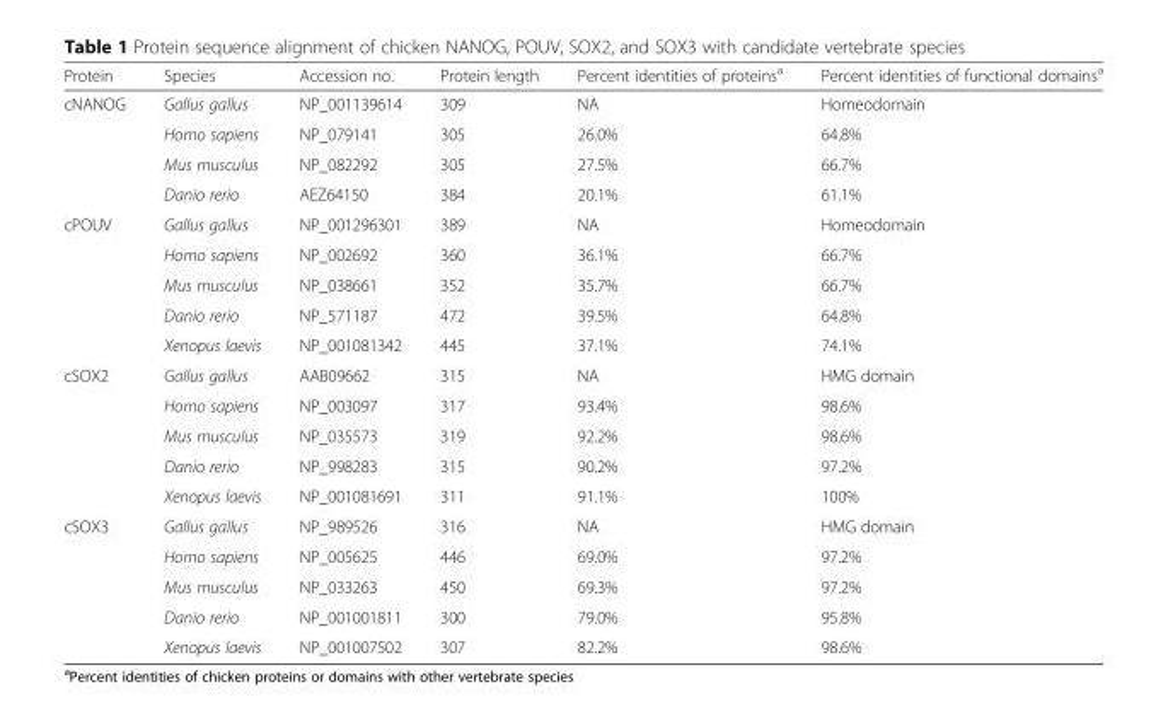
<table><thead><tr><td>Protein</td><td>Species</td><td>Accession no.</td><td>Protein length</td><td>Percent identities of proteins<sup>a</sup></td><td>Percent identities of functional domains<sup>a</sup></td></tr></thead><tbody><tr><td rowspan="4">cNANOG</td><td>Gallus gallus</td><td>NP_001139614</td><td>309</td><td>NA</td><td>Homeodomain</td></tr><tr><td>Homo sapiens</td><td>NP_079141</td><td>305</td><td>26.0%</td><td>64.8%</td></tr><tr><td>Mus musculus</td><td>NP_082292</td><td>305</td><td>27.5%</td><td>66.7%</td></tr><tr><td>Danio rerio</td><td>AEZ64150</td><td>384</td><td>20.1%</td><td>61.1%</td></tr><tr><td rowspan="5">cPOUV</td><td>Gallus gallus</td><td>NP_001296301</td><td>389</td><td>NA</td><td>Homeodomain</td></tr><tr><td>Homo sapiens</td><td>NP_002692</td><td>360</td><td>36.1%</td><td>66.7%</td></tr><tr><td>Mus musculus</td><td>NP_038661</td><td>352</td><td>35.7%</td><td>66.7%</td></tr><tr><td>Danio rerio</td><td>NP_571187</td><td>472</td><td>39.5%</td><td>64.8%</td></tr><tr><td>Xenopus laevis</td><td>NP_001081342</td><td>445</td><td>37.1%</td><td>74.1%</td></tr><tr><td rowspan="5">cSOX2</td><td>Gallus gallus</td><td>AAB09662</td><td>315</td><td>NA</td><td>HMG domain</td></tr><tr><td>Homo sapiens</td><td>NP_003097</td><td>317</td><td>93.4%</td><td>98.6%</td></tr><tr><td>Mus musculus</td><td>NP_035573</td><td>319</td><td>92.2%</td><td>98.6%</td></tr><tr><td>Danio rerio</td><td>NP_998283</td><td>315</td><td>90.2%</td><td>97.2%</td></tr><tr><td>Xenopus laevis</td><td>NP_001081691</td><td>311</td><td>91.1%</td><td>100%</td></tr><tr><td rowspan="5">cSOX3</td><td>Gallus gallus</td><td>NP_989526</td><td>316</td><td>NA</td><td>HMG domain</td></tr><tr><td>Homo sapiens</td><td>NP_005625</td><td>446</td><td>69.0%</td><td>97.2%</td></tr><tr><td>Mus musculus</td><td>NP_033263</td><td>450</td><td>69.3%</td><td>97.2%</td></tr><tr><td>Danio rerio</td><td>NP_001001811</td><td>300</td><td>79.0%</td><td>95.8%</td></tr><tr><td>Xenopus laevis</td><td>NP_001007502</td><td>307</td><td>82.2%</td><td>98.6%</td></tr></tbody></table>